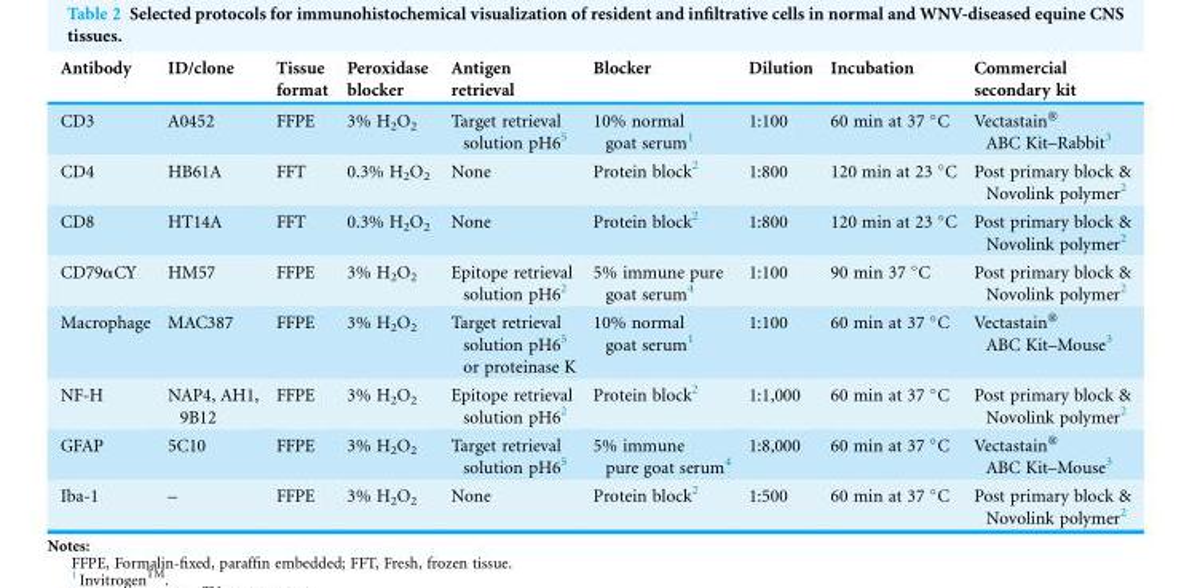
<table><thead><tr><td>Antibody</td><td>ID/clone</td><td>Tissue format</td><td>Peroxidase blocker</td><td>Antigen retrieval</td><td>Blocker</td><td>Dilution</td><td>Incubation</td><td>Commercial secondary kit</td></tr></thead><tbody><tr><td>CD3</td><td>A0452</td><td>FFPE</td><td>3% H<sub>2</sub>O<sub>2</sub></td><td>Target retrieval solution pH6<sup>5</sup></td><td>10% normal goat serum<sup>1</sup></td><td>1:100</td><td>60 min at 37 °C</td><td>Vectastain® ABC Kit–Rabbit<sup>3</sup></td></tr><tr><td>CD4</td><td>HB61A</td><td>FFT</td><td>0.3% H<sub>2</sub>O<sub>2</sub></td><td>None</td><td>Protein block<sup>2</sup></td><td>1:800</td><td>120 min at 23 °C</td><td>Post primary block &amp; Novolink polymer<sup>2</sup></td></tr><tr><td>CD8</td><td>HT14A</td><td>FFT</td><td>0.3% H<sub>2</sub>O<sub>2</sub></td><td>None</td><td>Protein block<sup>2</sup></td><td>1:800</td><td>120 min at 23 °C</td><td>Post primary block &amp; Novolink polymer<sup>2</sup></td></tr><tr><td>CD79αCY</td><td>HM57</td><td>FFPE</td><td>3% H<sub>2</sub>O<sub>2</sub></td><td>Epitope retrieval solution pH6<sup>2</sup></td><td>5% immune pure goat serum<sup>4</sup></td><td>1:100</td><td>90 min 37 °C</td><td>Post primary block &amp; Novolink polymer<sup>2</sup></td></tr><tr><td>Macrophage</td><td>MAC387</td><td>FFPE</td><td>3% H<sub>2</sub>O<sub>2</sub></td><td>Target retrieval solution pH6<sup>5</sup> or proteinase K</td><td>10% normal goat serum<sup>1</sup></td><td>1:100</td><td>60 min at 37 °C</td><td>Vectastain® ABC Kit–Mouse<sup>3</sup></td></tr><tr><td>NF-H</td><td>NAP4, AH1, 9B12</td><td>FFPE</td><td>3% H<sub>2</sub>O<sub>2</sub></td><td>Epitope retrieval solution pH6<sup>2</sup></td><td>Protein block<sup>2</sup></td><td>1:1,000</td><td>60 min at 37 °C</td><td>Post primary block &amp; Novolink polymer<sup>2</sup></td></tr><tr><td>GFAP</td><td>5C10</td><td>FFPE</td><td>3% H<sub>2</sub>O<sub>2</sub></td><td>Target retrieval solution pH6<sup>5</sup></td><td>5% immune pure goat serum<sup>4</sup></td><td>1:8,000</td><td>60 min at 37 °C</td><td>Vectastain® ABC Kit–Mouse<sup>3</sup></td></tr><tr><td>Iba-1</td><td>–</td><td>FFPE</td><td>3% H<sub>2</sub>O<sub>2</sub></td><td>None</td><td>Protein block<sup>2</sup></td><td>1:500</td><td>60 min at 37 °C</td><td>Post primary block &amp; Novolink polymer<sup>2</sup></td></tr></tbody></table>